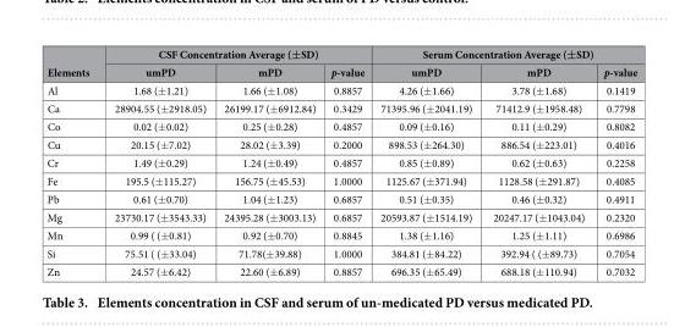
<table><thead><tr><td rowspan="2">Elements</td><td colspan="3">CSF Concentration Average (±SD)</td><td colspan="3">Serum Concentration Average (±SD)</td></tr><tr><td>umPD</td><td>mPD</td><td>p-value</td><td>umPD</td><td>mPD</td><td>p-value</td></tr></thead><tbody><tr><td>Al</td><td>1.68 (± 1.21)</td><td>1.66 (± 1.08)</td><td>0.8857</td><td>4.26 (± 1.66)</td><td>3.78 (± 1.68)</td><td>0.1419</td></tr><tr><td>Ca</td><td>28904.55 (± 2918.05)</td><td>26199.17 (± 6912.84)</td><td>0.3429</td><td>71395.96 (± 2041.19)</td><td>71412.9 (± 1958.48)</td><td>0.7798</td></tr><tr><td>Co</td><td>0.02 (± 0.02)</td><td>0.25 (± 0.28)</td><td>0.4857</td><td>0.09 (± 0.16)</td><td>0.11 (± 0.29)</td><td>0.8082</td></tr><tr><td>Cu</td><td>20.15 (± 7.02)</td><td>28.02 (± 3.39)</td><td>0.2000</td><td>898.53 (± 264.30)</td><td>886.54 (± 223.01)</td><td>0.4016</td></tr><tr><td>Cr</td><td>1.49 (± 0.29)</td><td>1.24 (± 0.49)</td><td>0.4857</td><td>0.85 (± 0.89)</td><td>0.62 (± 0.63)</td><td>0.2258</td></tr><tr><td>Fe</td><td>195.5 (± 115.27)</td><td>156.75 (± 45.53)</td><td>1.0000</td><td>1125.67 (± 371.94)</td><td>1128.58 (± 291.87)</td><td>0.4085</td></tr><tr><td>Pb</td><td>0.61 (± 0.70)</td><td>1.04 (± 1.23)</td><td>0.6857</td><td>0.51 (± 0.35)</td><td>0.46 (± 0.32)</td><td>0.4911</td></tr><tr><td>Mg</td><td>23730.17 (± 3543.33)</td><td>24395.28 (± 3003.13)</td><td>0.6857</td><td>20593.87 (± 1514.19)</td><td>20247.17 (± 1043.04)</td><td>0.2320</td></tr><tr><td>Mn</td><td>0.99 ( (± 0.81)</td><td>0.92 (± 0.70)</td><td>0.8845</td><td>1.38 (± 1.16)</td><td>1.25 (± 1.11)</td><td>0.6986</td></tr><tr><td>Si</td><td>75.51 ( (± 33.04)</td><td>71.78(± 39.88)</td><td>1.0000</td><td>384.81 (± 84.22)</td><td>392.94 ( (± 89.73)</td><td>0.7054</td></tr><tr><td>Zn</td><td>24.57 (± 6.42)</td><td>22.60 (± 6.89)</td><td>0.8857</td><td>696.35 (± 65.49)</td><td>688.18 (± 110.94)</td><td>0.7032</td></tr></tbody></table>